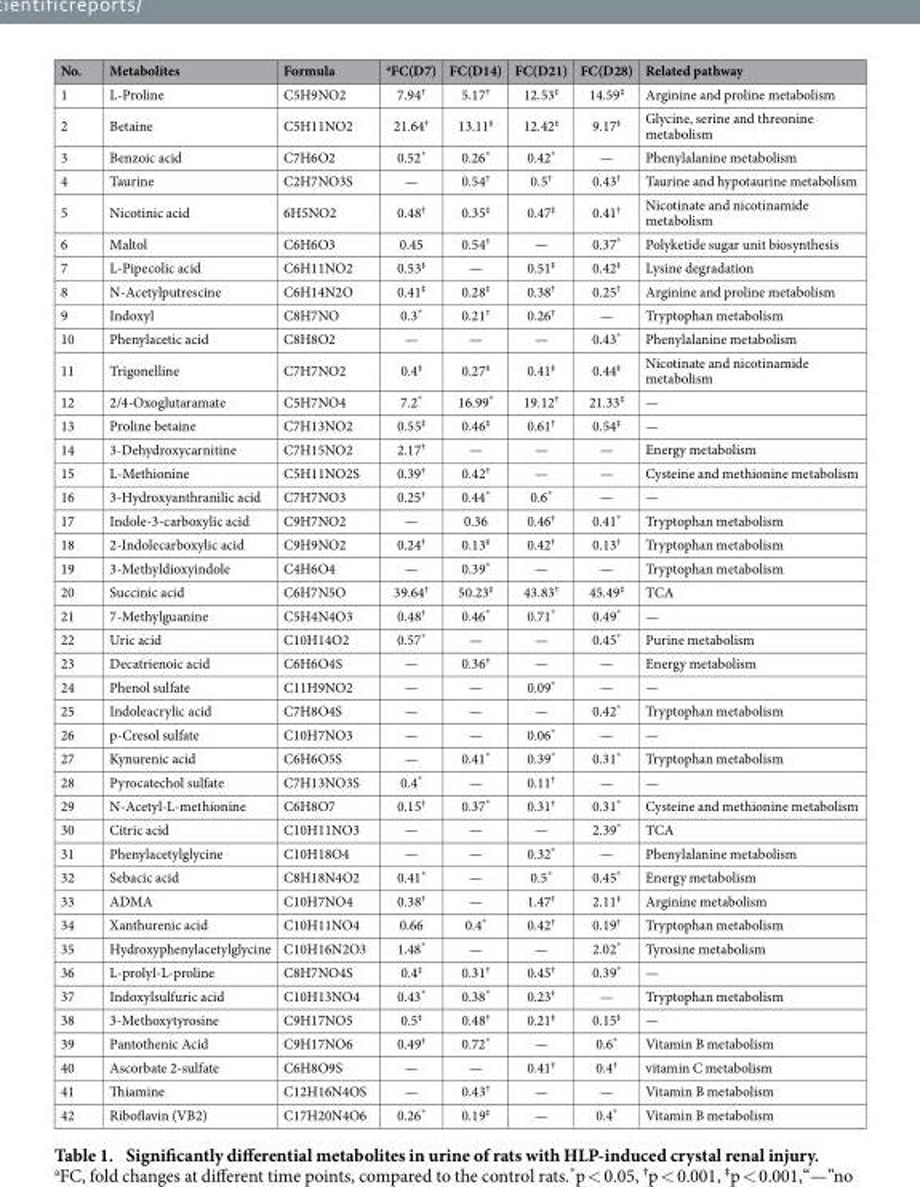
<table><thead><tr><td>No.</td><td>Metabolites</td><td>Formula</td><td><sup>a</sup>FC(D7)</td><td>FC(D14)</td><td>FC(D21)</td><td>FC(D28)</td><td>Related pathway</td></tr></thead><tbody><tr><td>1</td><td>L-Proline</td><td>C5H9NO2</td><td>7.94<sup>†</sup></td><td>5.17<sup>†</sup></td><td>12.53<sup>‡</sup></td><td>14.59<sup>‡</sup></td><td>Arginine and proline metabolism</td></tr><tr><td>2</td><td>Betaine</td><td>C5H11NO2</td><td>21.64<sup>†</sup></td><td>13.11<sup>‡</sup></td><td>12.42<sup>‡</sup></td><td>9.17<sup>‡</sup></td><td>Glycine, serine and threonine metabolism</td></tr><tr><td>3</td><td>Benzoic acid</td><td>C7H6O2</td><td>0.52*</td><td>0.26*</td><td>0.42*</td><td>—</td><td>Phenylalanine metabolism</td></tr><tr><td>4</td><td>Taurine</td><td>C2H7NO3S</td><td>—</td><td>0.54<sup>†</sup></td><td>0.5<sup>†</sup></td><td>0.43<sup>†</sup></td><td>Taurine and hypotaurine metabolism</td></tr><tr><td>5</td><td>Nicotinic acid</td><td>6H5NO2</td><td>0.48<sup>†</sup></td><td>0.35<sup>‡</sup></td><td>0.47<sup>‡</sup></td><td>0.41<sup>†</sup></td><td>Nicotinate and nicotinamide metabolism</td></tr><tr><td>6</td><td>Maltol</td><td>C6H6O3</td><td>0.45</td><td>0.54<sup>†</sup></td><td>—</td><td>0.37*</td><td>Polyketide sugar unit biosynthesis</td></tr><tr><td>7</td><td>L-Pipecolic acid</td><td>C6H11NO2</td><td>0.53<sup>‡</sup></td><td>—</td><td>0.51<sup>‡</sup></td><td>0.42<sup>‡</sup></td><td>Lysine degradation</td></tr><tr><td>8</td><td>N-Acetylputrescine</td><td>C6H14N2O</td><td>0.41<sup>‡</sup></td><td>0.28<sup>‡</sup></td><td>0.38<sup>†</sup></td><td>0.25<sup>†</sup></td><td>Arginine and proline metabolism</td></tr><tr><td>9</td><td>Indoxyl</td><td>C8H7NO</td><td>0.3*</td><td>0.21<sup>†</sup></td><td>0.26<sup>†</sup></td><td>—</td><td>Tryptophan metabolism</td></tr><tr><td>10</td><td>Phenylacetic acid</td><td>C8H8O2</td><td>—</td><td>—</td><td>—</td><td>0.43*</td><td>Phenylalanine metabolism</td></tr><tr><td>11</td><td>Trigonelline</td><td>C7H7NO2</td><td>0.4<sup>‡</sup></td><td>0.27<sup>‡</sup></td><td>0.41<sup>‡</sup></td><td>0.44<sup>‡</sup></td><td>Nicotinate and nicotinamide metabolism</td></tr><tr><td>12</td><td>2/4-Oxoglutaramate</td><td>C5H7NO4</td><td>7.2*</td><td>16.99*</td><td>19.12<sup>†</sup></td><td>21.33<sup>‡</sup></td><td>—</td></tr><tr><td>13</td><td>Proline betaine</td><td>C7H13NO2</td><td>0.55<sup>‡</sup></td><td>0.46<sup>‡</sup></td><td>0.61<sup>†</sup></td><td>0.54<sup>‡</sup></td><td>—</td></tr><tr><td>14</td><td>3-Dehydroxycarnitine</td><td>C7H15NO2</td><td>2.17<sup>†</sup></td><td>—</td><td>—</td><td>—</td><td>Energy metabolism</td></tr><tr><td>15</td><td>L-Methionine</td><td>C5H11NO2S</td><td>0.39<sup>†</sup></td><td>0.42<sup>†</sup></td><td>—</td><td>—</td><td>Cysteine and methionine metabolism</td></tr><tr><td>16</td><td>3-Hydroxyanthranilic acid</td><td>C7H7NO3</td><td>0.25<sup>†</sup></td><td>0.44*</td><td>0.6*</td><td>—</td><td>—</td></tr><tr><td>17</td><td>Indole-3-carboxylic acid</td><td>C9H7NO2</td><td>—</td><td>0.36</td><td>0.46<sup>†</sup></td><td>0.41*</td><td>Tryptophan metabolism</td></tr><tr><td>18</td><td>2-Indolecarboxylic acid</td><td>C9H9NO2</td><td>0.24<sup>†</sup></td><td>0.13<sup>‡</sup></td><td>0.42<sup>†</sup></td><td>0.13<sup>†</sup></td><td>Tryptophan metabolism</td></tr><tr><td>19</td><td>3-Methyldioxyindole</td><td>C4H6O4</td><td>—</td><td>0.39*</td><td>—</td><td>—</td><td>Tryptophan metabolism</td></tr><tr><td>20</td><td>Succinic acid</td><td>C6H7N5O</td><td>39.64<sup>†</sup></td><td>50.23<sup>‡</sup></td><td>43.83<sup>†</sup></td><td>45.49<sup>‡</sup></td><td>TCA</td></tr><tr><td>21</td><td>7-Methylguanine</td><td>C5H4N4O3</td><td>0.48<sup>†</sup></td><td>0.46*</td><td>0.71*</td><td>0.49*</td><td>—</td></tr><tr><td>22</td><td>Uric acid</td><td>C10H14O2</td><td>0.57*</td><td>—</td><td>—</td><td>0.45*</td><td>Purine metabolism</td></tr><tr><td>23</td><td>Decatrienoic acid</td><td>C6H6O4S</td><td>—</td><td>0.36<sup>†</sup></td><td>—</td><td>—</td><td>Energy metabolism</td></tr><tr><td>24</td><td>Phenol sulfate</td><td>C11H9NO2</td><td>—</td><td>—</td><td>0.09*</td><td>—</td><td>—</td></tr><tr><td>25</td><td>Indoleacrylic acid</td><td>C7H8O4S</td><td>—</td><td>—</td><td>—</td><td>0.42*</td><td>Tryptophan metabolism</td></tr><tr><td>26</td><td>p-Cresol sulfate</td><td>C10H7NO3</td><td>—</td><td>—</td><td>0.06*</td><td>—</td><td>—</td></tr><tr><td>27</td><td>Kynurenic acid</td><td>C6H6O5S</td><td>—</td><td>0.41*</td><td>0.39*</td><td>0.31*</td><td>Tryptophan metabolism</td></tr><tr><td>28</td><td>Pyrocatechol sulfate</td><td>C7H13NO3S</td><td>0.4*</td><td>—</td><td>0.11<sup>†</sup></td><td>—</td><td>—</td></tr><tr><td>29</td><td>N-Acetyl-L-methionine</td><td>C6H8O7</td><td>0.15<sup>†</sup></td><td>0.37*</td><td>0.31<sup>†</sup></td><td>0.31*</td><td>Cysteine and methionine metabolism</td></tr><tr><td>30</td><td>Citric acid</td><td>C10H11NO3</td><td>—</td><td>—</td><td>—</td><td>2.39*</td><td>TCA</td></tr><tr><td>31</td><td>Phenylacetylglycine</td><td>C10H18O4</td><td>—</td><td>—</td><td>0.32*</td><td>—</td><td>Phenylalanine metabolism</td></tr><tr><td>32</td><td>Sebacic acid</td><td>C8H18N4O2</td><td>0.41*</td><td>—</td><td>0.5*</td><td>0.45*</td><td>Energy metabolism</td></tr><tr><td>33</td><td>ADMA</td><td>C10H7NO4</td><td>0.38<sup>†</sup></td><td>—</td><td>1.47<sup>†</sup></td><td>2.11<sup>‡</sup></td><td>Arginine metabolism</td></tr><tr><td>34</td><td>Xanthurenic acid</td><td>C10H11NO4</td><td>0.66</td><td>0.4*</td><td>0.42<sup>†</sup></td><td>0.19<sup>†</sup></td><td>Tryptophan metabolism</td></tr><tr><td>35</td><td>Hydroxyphenylacetylglycine</td><td>C10H16N2O3</td><td>1.48*</td><td>—</td><td>—</td><td>2.02*</td><td>Tyrosine metabolism</td></tr><tr><td>36</td><td>L-prolyl-L-proline</td><td>C8H7NO4S</td><td>0.4<sup>‡</sup></td><td>0.31<sup>†</sup></td><td>0.45<sup>†</sup></td><td>0.39*</td><td>—</td></tr><tr><td>37</td><td>Indoxylsulfuric acid</td><td>C10H13NO4</td><td>0.43*</td><td>0.38*</td><td>0.23<sup>†</sup></td><td>—</td><td>Tryptophan metabolism</td></tr><tr><td>38</td><td>3-Methoxytyrosine</td><td>C9H17NO5</td><td>0.5<sup>‡</sup></td><td>0.48<sup>†</sup></td><td>0.21<sup>‡</sup></td><td>0.15<sup>‡</sup></td><td>—</td></tr><tr><td>39</td><td>Pantothenic Acid</td><td>C9H17NO6</td><td>0.49<sup>†</sup></td><td>0.72*</td><td>—</td><td>0.6*</td><td>Vitamin B metabolism</td></tr><tr><td>40</td><td>Ascorbate 2-sulfate</td><td>C6H8O9S</td><td>—</td><td>—</td><td>0.41<sup>†</sup></td><td>0.4<sup>†</sup></td><td>vitamin C metabolism</td></tr><tr><td>41</td><td>Thiamine</td><td>C12H16N4OS</td><td>—</td><td>0.43<sup>†</sup></td><td>—</td><td>—</td><td>Vitamin B metabolism</td></tr><tr><td>42</td><td>Riboflavin (VB2)</td><td>C17H20N4O6</td><td>0.26*</td><td>0.19<sup>‡</sup></td><td>—</td><td>0.4*</td><td>Vitamin B metabolism</td></tr></tbody></table>